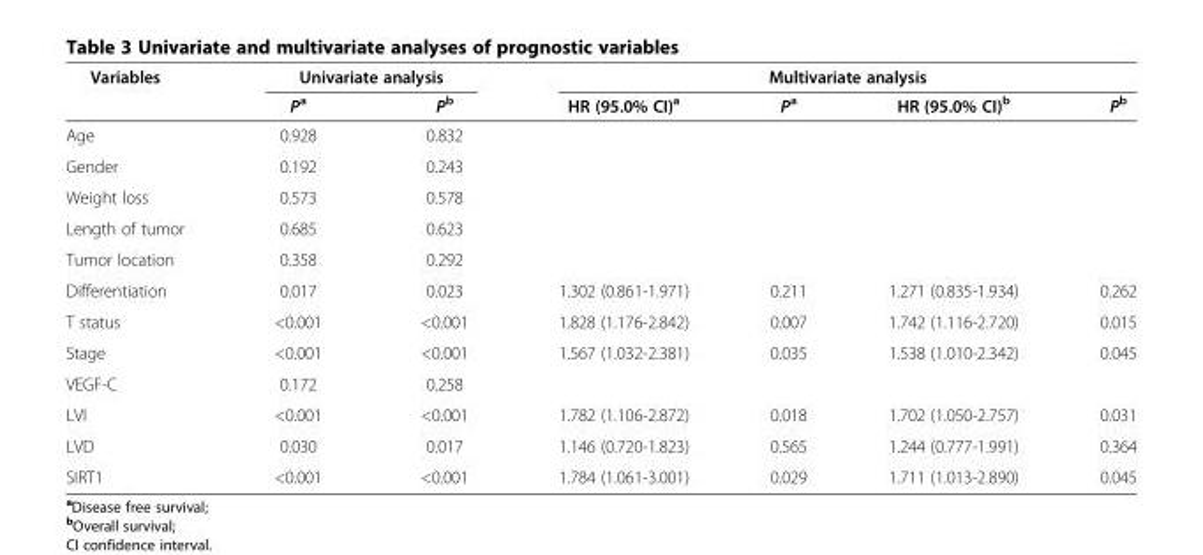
<table><thead><tr><td rowspan="2">Variables</td><td colspan="2">Univariate analysis</td><td colspan="4">Multivariate analysis</td></tr><tr><td>P<sup>a</sup></td><td>P<sup>b</sup></td><td>HR (95.0% CI)<sup>a</sup></td><td>P<sup>a</sup></td><td>HR (95.0% CI)<sup>b</sup></td><td>P<sup>b</sup></td></tr></thead><tbody><tr><td>Age</td><td>0.928</td><td>0.832</td><td></td><td></td><td></td><td></td></tr><tr><td>Gender</td><td>0.192</td><td>0.243</td><td></td><td></td><td></td><td></td></tr><tr><td>Weight loss</td><td>0.573</td><td>0.578</td><td></td><td></td><td></td><td></td></tr><tr><td>Length of tumor</td><td>0.685</td><td>0.623</td><td></td><td></td><td></td><td></td></tr><tr><td>Tumor location</td><td>0.358</td><td>0.292</td><td></td><td></td><td></td><td></td></tr><tr><td>Differentiation</td><td>0.017</td><td>0.023</td><td>1.302 (0.861-1.971)</td><td>0.211</td><td>1.271 (0.835-1.934)</td><td>0.262</td></tr><tr><td>T status</td><td>&lt;0.001</td><td>&lt;0.001</td><td>1.828 (1.176-2.842)</td><td>0.007</td><td>1.742 (1.116-2.720)</td><td>0.015</td></tr><tr><td>Stage</td><td>&lt;0.001</td><td>&lt;0.001</td><td>1.567 (1.032-2.381)</td><td>0.035</td><td>1.538 (1.010-2.342)</td><td>0.045</td></tr><tr><td>VEGF-C</td><td>0.172</td><td>0.258</td><td></td><td></td><td></td><td></td></tr><tr><td>LVI</td><td>&lt;0.001</td><td>&lt;0.001</td><td>1.782 (1.106-2.872)</td><td>0.018</td><td>1.702 (1.050-2.757)</td><td>0.031</td></tr><tr><td>LVD</td><td>0.030</td><td>0.017</td><td>1.146 (0.720-1.823)</td><td>0.565</td><td>1.244 (0.777-1.991)</td><td>0.364</td></tr><tr><td>SIRT1</td><td>&lt;0.001</td><td>&lt;0.001</td><td>1.784 (1.061-3.001)</td><td>0.029</td><td>1.711 (1.013-2.890)</td><td>0.045</td></tr></tbody></table>